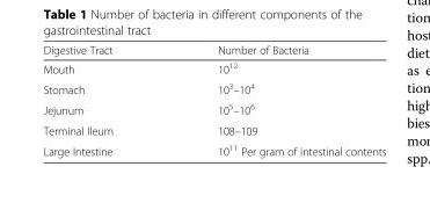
<table><thead><tr><td>Digestive Tract</td><td>Number of Bacteria</td></tr></thead><tbody><tr><td>Mouth</td><td>10<sup>12</sup></td></tr><tr><td>Stomach</td><td>10<sup>3</sup>–10<sup>4</sup></td></tr><tr><td>Jejunum</td><td>10<sup>5</sup>–10<sup>6</sup></td></tr><tr><td>Terminal Ileum</td><td>108–109</td></tr><tr><td>Large Intestine</td><td>10<sup>11</sup> Per gram of intestinal contents</td></tr></tbody></table>